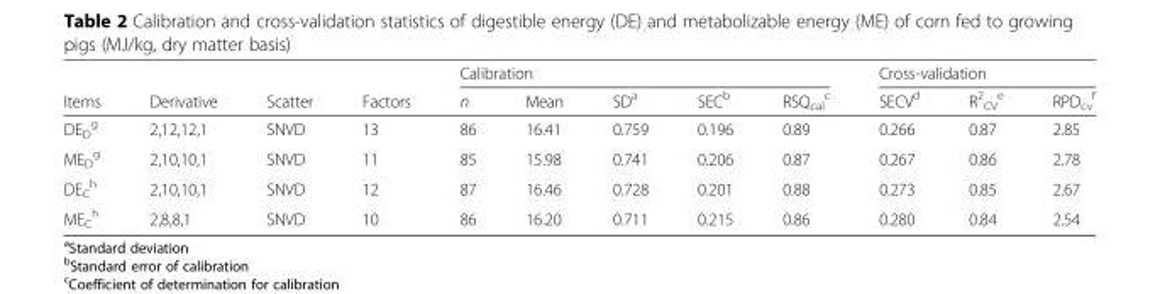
<table><thead><tr><td rowspan="2">Items</td><td rowspan="2">Derivative</td><td rowspan="2">Scatter</td><td rowspan="2">Factors</td><td colspan="5">Calibration</td><td colspan="3">Cross-validation</td></tr><tr><td>n</td><td>Mean</td><td>SD<sup>a</sup></td><td>SEC<sup>b</sup></td><td>RSQ<sub>cal</sub> <sup>c</sup></td><td>SECV<sup>d</sup></td><td>R<sup>2</sup> <sub>CV</sub> <sup>e</sup></td><td>RPD<sub>cv</sub> <sup>f</sup></td></tr></thead><tbody><tr><td>DE<sub>D</sub> <sup>g</sup></td><td>2,12,12,1</td><td>SNVD</td><td>13</td><td>86</td><td>16.41</td><td>0.759</td><td>0.196</td><td>0.89</td><td>0.266</td><td>0.87</td><td>2.85</td></tr><tr><td>ME<sub>D</sub> <sup>g</sup></td><td>2,10,10,1</td><td>SNVD</td><td>11</td><td>85</td><td>15.98</td><td>0.741</td><td>0.206</td><td>0.87</td><td>0.267</td><td>0.86</td><td>2.78</td></tr><tr><td>DE<sub>C</sub> <sup>h</sup></td><td>2,10,10,1</td><td>SNVD</td><td>12</td><td>87</td><td>16.46</td><td>0.728</td><td>0.201</td><td>0.88</td><td>0.273</td><td>0.85</td><td>2.67</td></tr><tr><td>ME<sub>C</sub> <sup>h</sup></td><td>2,8,8,1</td><td>SNVD</td><td>10</td><td>86</td><td>16.20</td><td>0.711</td><td>0.215</td><td>0.86</td><td>0.280</td><td>0.84</td><td>2.54</td></tr></tbody></table>